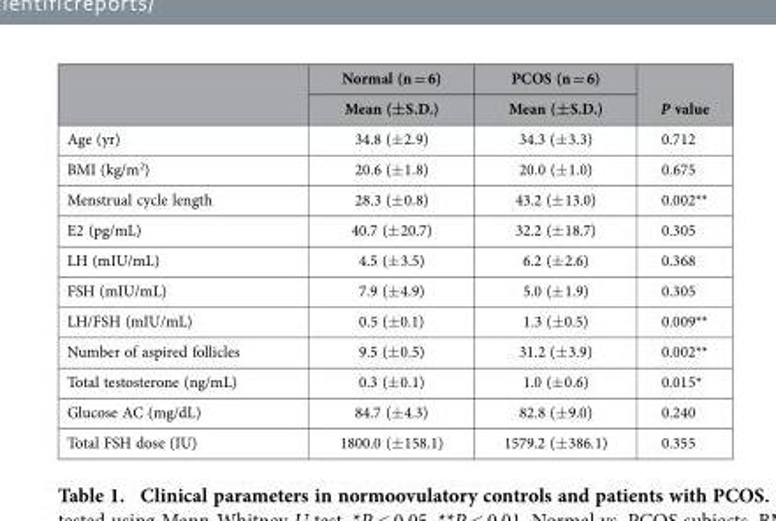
<table><thead><tr><td rowspan="2"></td><td rowspan="2">Normal (n = 6) Mean (±S.D.)</td><td rowspan="2">PCOS (n = 6) Mean (±S.D.)</td><td rowspan="2">P value</td></tr><tr></tr></thead><tbody><tr><td>Age (yr)</td><td>34.8 (± 2.9)</td><td>34.3 (± 3.3)</td><td>0.712</td></tr><tr><td>BMI (kg/m<sup>2</sup>)</td><td>20.6 (± 1.8)</td><td>20.0 (± 1.0)</td><td>0.675</td></tr><tr><td>Menstrual cycle length</td><td>28.3 (± 0.8)</td><td>43.2 (± 13.0)</td><td>0.002**</td></tr><tr><td>E2 (pg/mL)</td><td>40.7 (± 20.7)</td><td>32.2 (± 18.7)</td><td>0.305</td></tr><tr><td>LH (mIU/mL)</td><td>4.5 (± 3.5)</td><td>6.2 (± 2.6)</td><td>0.368</td></tr><tr><td>FSH (mIU/mL)</td><td>7.9 (± 4.9)</td><td>5.0 (± 1.9)</td><td>0.305</td></tr><tr><td>LH/FSH (mIU/mL)</td><td>0.5 (±0.1)</td><td>1.3 (±0.5)</td><td>0.009**</td></tr><tr><td>Number of aspired follicles</td><td>9.5 (± 0.5)</td><td>31.2 (± 3.9)</td><td>0.002**</td></tr><tr><td>Total testosterone (ng/mL)</td><td>0.3 (± 0.1)</td><td>1.0 (± 0.6)</td><td>0.015*</td></tr><tr><td>Glucose AC (mg/dL)</td><td>84.7 (± 4.3)</td><td>82.8 (± 9.0)</td><td>0.240</td></tr><tr><td>Total FSH dose (IU)</td><td>1800.0 (± 158.1)</td><td>1579.2 (± 386.1)</td><td>0.355</td></tr></tbody></table>